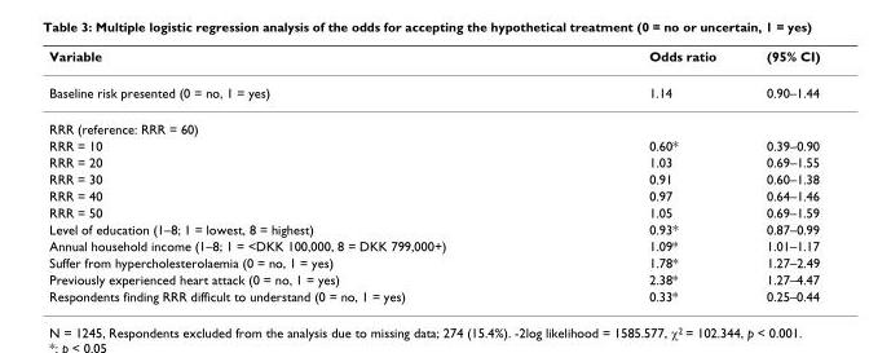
<table><thead><tr><td>Variable</td><td>Odds ratio</td><td>(95% CI)</td></tr></thead><tbody><tr><td>Baseline risk presented (0 = no, 1 = yes)</td><td>1.14</td><td>0.90–1.44</td></tr><tr><td colspan="3">RRR (reference: RRR = 60)</td></tr><tr><td>RRR = 10</td><td>0.60*</td><td>0.39–0.90</td></tr><tr><td>RRR = 20</td><td>1.03</td><td>0.69–1.55</td></tr><tr><td>RRR = 30</td><td>0.91</td><td>0.60–1.38</td></tr><tr><td>RRR = 40</td><td>0.97</td><td>0.64–1.46</td></tr><tr><td>RRR = 50</td><td>1.05</td><td>0.69–1.59</td></tr><tr><td>Level of education (1–8; 1 = lowest, 8 = highest)</td><td>0.93*</td><td>0.87–0.99</td></tr><tr><td>Annual household income (1–8; 1 = &lt;DKK 100,000, 8 = DKK 799,000+)</td><td>1.09*</td><td>1.01–1.17</td></tr><tr><td>Suffer from hypercholesterolaemia (0 = no, 1 = yes)</td><td>1.78*</td><td>1.27–2.49</td></tr><tr><td>Previously experienced heart attack (0 = no, 1 = yes)</td><td>2.38*</td><td>1.27–4.47</td></tr><tr><td>Respondents finding RRR difficult to understand (0 = no, 1 = yes)</td><td>0.33*</td><td>0.25–0.44</td></tr></tbody></table>